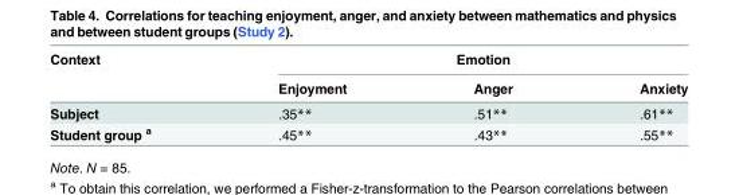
<table><thead><tr><td rowspan="2">Context</td><td colspan="3">Emotion</td></tr><tr><td>Enjoyment</td><td>Anger</td><td>Anxiety</td></tr></thead><tbody><tr><td>Subject</td><td>.35**</td><td>.51**</td><td>.61**</td></tr><tr><td>Student group <sup>a</sup></td><td>.45**</td><td>.43**</td><td>.55**</td></tr></tbody></table>